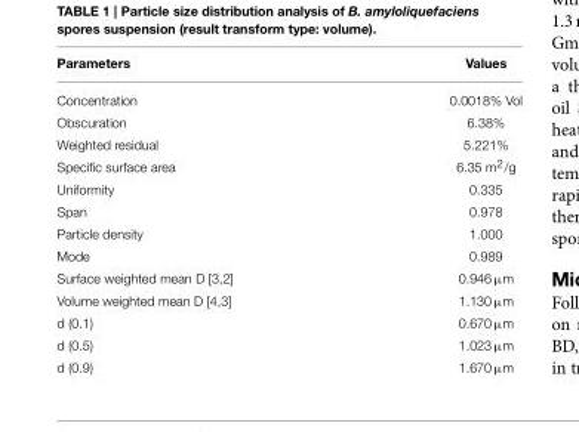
<table><thead><tr><td>Parameters</td><td>Values</td></tr></thead><tbody><tr><td>Concentration</td><td>0.0018% Vol</td></tr><tr><td>Obscuration</td><td>6.38%</td></tr><tr><td>Weighted residual</td><td>5.221%</td></tr><tr><td>Specific surface area</td><td>6.35 m<sup>2</sup>/g</td></tr><tr><td>Uniformity</td><td>0.335</td></tr><tr><td>Span</td><td>0.978</td></tr><tr><td>Particle density</td><td>1.000</td></tr><tr><td>Mode</td><td>0.989</td></tr><tr><td>Surface weighted mean D [3,2]</td><td>0.946 µm</td></tr><tr><td>Volume weighted mean D [4,3]</td><td>1.130 µm</td></tr><tr><td>d (0.1)</td><td>0.670 µm</td></tr><tr><td>d (0.5)</td><td>1.023 µm</td></tr><tr><td>d (0.9)</td><td>1.670 µm</td></tr></tbody></table>